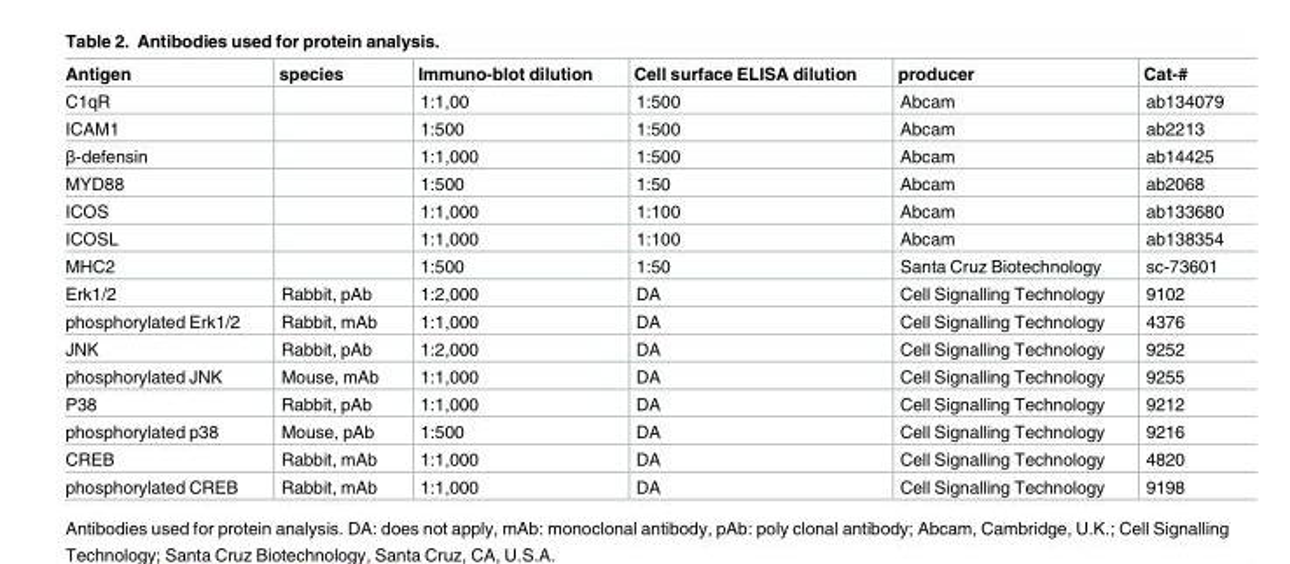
<table><thead><tr><td>Antigen</td><td>species</td><td>Immuno-blot dilution</td><td>Cell surface ELISA dilution</td><td>producer</td><td>Cat-#</td></tr></thead><tbody><tr><td>C1qR</td><td></td><td>1:1,00</td><td>1:500</td><td>Abcam</td><td>ab134079</td></tr><tr><td>ICAM1</td><td></td><td>1:500</td><td>1:500</td><td>Abcam</td><td>ab2213</td></tr><tr><td>β-defensin</td><td></td><td>1:1,000</td><td>1:500</td><td>Abcam</td><td>ab14425</td></tr><tr><td>MYD88</td><td></td><td>1:500</td><td>1:50</td><td>Abcam</td><td>ab2068</td></tr><tr><td>ICOS</td><td></td><td>1:1,000</td><td>1:100</td><td>Abcam</td><td>ab133680</td></tr><tr><td>ICOSL</td><td></td><td>1:1,000</td><td>1:100</td><td>Abcam</td><td>ab138354</td></tr><tr><td>MHC2</td><td></td><td>1:500</td><td>1:50</td><td>Santa Cruz Biotechnology</td><td>sc-73601</td></tr><tr><td>Erk1/2</td><td>Rabbit, pAb</td><td>1:2,000</td><td>DA</td><td>Cell Signalling Technology</td><td>9102</td></tr><tr><td>phosphorylated Erk1/2</td><td>Rabbit, mAb</td><td>1:1,000</td><td>DA</td><td>Cell Signalling Technology</td><td>4376</td></tr><tr><td>JNK</td><td>Rabbit, pAb</td><td>1:2,000</td><td>DA</td><td>Cell Signalling Technology</td><td>9252</td></tr><tr><td>phosphorylated JNK</td><td>Mouse, mAb</td><td>1:1,000</td><td>DA</td><td>Cell Signalling Technology</td><td>9255</td></tr><tr><td>P38</td><td>Rabbit, pAb</td><td>1:1,000</td><td>DA</td><td>Cell Signalling Technology</td><td>9212</td></tr><tr><td>phosphorylated p38</td><td>Mouse, pAb</td><td>1:500</td><td>DA</td><td>Cell Signalling Technology</td><td>9216</td></tr><tr><td>CREB</td><td>Rabbit, mAb</td><td>1:1,000</td><td>DA</td><td>Cell Signalling Technology</td><td>4820</td></tr><tr><td>phosphorylated CREB</td><td>Rabbit, mAb</td><td>1:1,000</td><td>DA</td><td>Cell Signalling Technology</td><td>9198</td></tr></tbody></table>